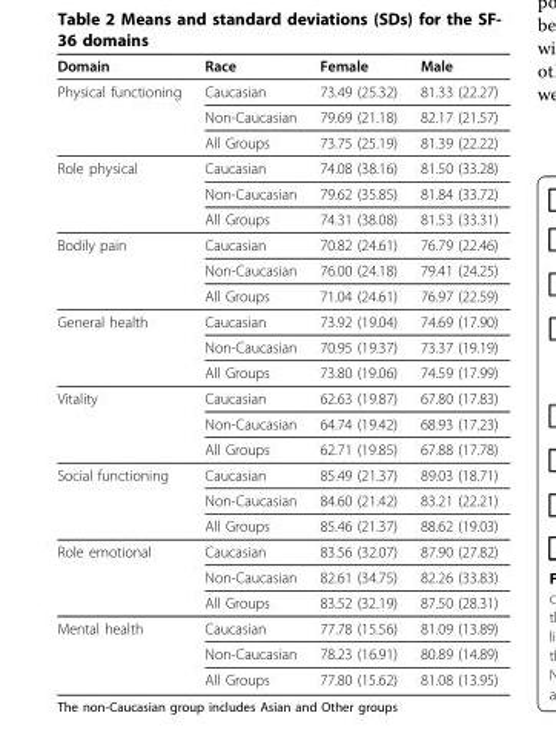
<table><thead><tr><td>Domain</td><td>Race</td><td>Female</td><td>Male</td></tr></thead><tbody><tr><td rowspan="3">Physical functioning</td><td>Caucasian</td><td>73.49 (25.32)</td><td>81.33 (22.27)</td></tr><tr><td>Non-Caucasian</td><td>79.69 (21.18)</td><td>82.17 (21.57)</td></tr><tr><td>All Groups</td><td>73.75 (25.19)</td><td>81.39 (22.22)</td></tr><tr><td rowspan="3">Role physical</td><td>Caucasian</td><td>74.08 (38.16)</td><td>81.50 (33.28)</td></tr><tr><td>Non-Caucasian</td><td>79.62 (35.85)</td><td>81.84 (33.72)</td></tr><tr><td>All Groups</td><td>74.31 (38.08)</td><td>81.53 (33.31)</td></tr><tr><td rowspan="3">Bodily pain</td><td>Caucasian</td><td>70.82 (24.61)</td><td>76.79 (22.46)</td></tr><tr><td>Non-Caucasian</td><td>76.00 (24.18)</td><td>79.41 (24.25)</td></tr><tr><td>All Groups</td><td>71.04 (24.61)</td><td>76.97 (22.59)</td></tr><tr><td rowspan="3">General health</td><td>Caucasian</td><td>73.92 (19.04)</td><td>74.69 (17.90)</td></tr><tr><td>Non-Caucasian</td><td>70.95 (19.37)</td><td>73.37 (19.19)</td></tr><tr><td>All Groups</td><td>73.80 (19.06)</td><td>74.59 (17.99)</td></tr><tr><td rowspan="3">Vitality</td><td>Caucasian</td><td>62.63 (19.87)</td><td>67.80 (17.83)</td></tr><tr><td>Non-Caucasian</td><td>64.74 (19.42)</td><td>68.93 (17.23)</td></tr><tr><td>All Groups</td><td>62.71 (19.85)</td><td>67.88 (17.78)</td></tr><tr><td rowspan="3">Social functioning</td><td>Caucasian</td><td>85.49 (21.37)</td><td>89.03 (18.71)</td></tr><tr><td>Non-Caucasian</td><td>84.60 (21.42)</td><td>83.21 (22.21)</td></tr><tr><td>All Groups</td><td>85.46 (21.37)</td><td>88.62 (19.03)</td></tr><tr><td rowspan="3">Role emotional</td><td>Caucasian</td><td>83.56 (32.07)</td><td>87.90 (27.82)</td></tr><tr><td>Non-Caucasian</td><td>82.61 (34.75)</td><td>82.26 (33.83)</td></tr><tr><td>All Groups</td><td>83.52 (32.19)</td><td>87.50 (28.31)</td></tr><tr><td rowspan="3">Mental health</td><td>Caucasian</td><td>77.78 (15.56)</td><td>81.09 (13.89)</td></tr><tr><td>Non-Caucasian</td><td>78.23 (16.91)</td><td>80.89 (14.89)</td></tr><tr><td>All Groups</td><td>77.80 (15.62)</td><td>81.08 (13.95)</td></tr></tbody></table>